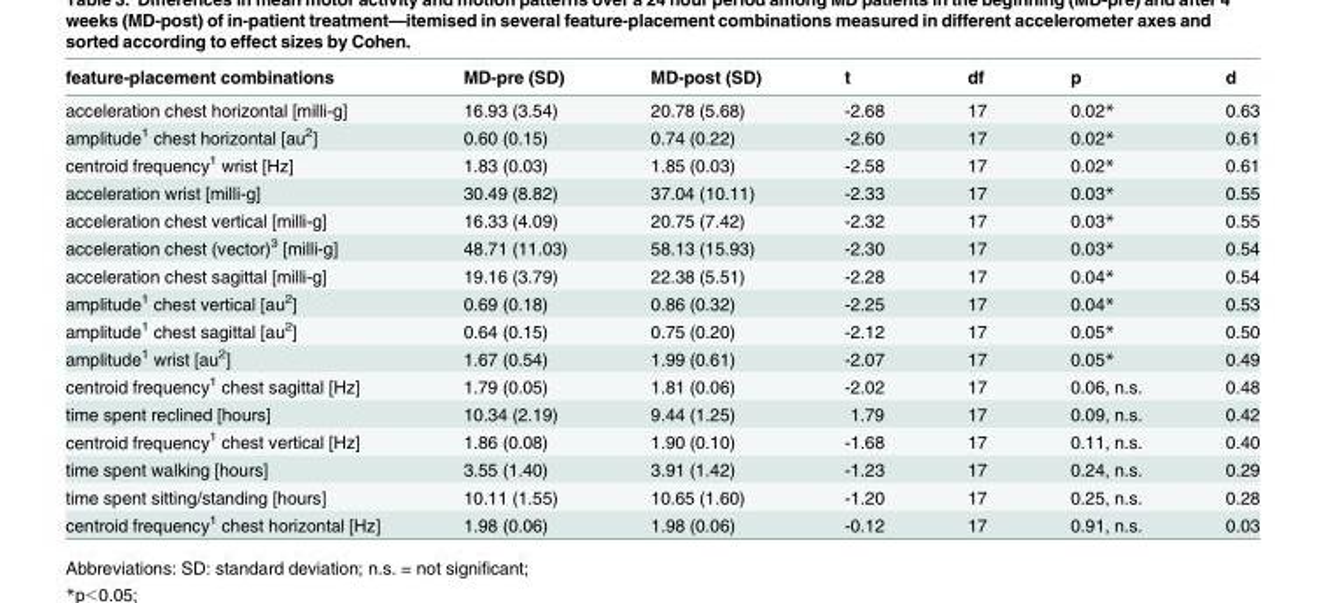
<table><thead><tr><td>feature-placement combinations</td><td>MD-pre (SD)</td><td>MD-post (SD)</td><td>t</td><td>df</td><td>p</td><td>d</td></tr></thead><tbody><tr><td>acceleration chest horizontal [milli-g]</td><td>16.93 (3.54)</td><td>20.78 (5.68)</td><td>-2.68</td><td>17</td><td>0.02*</td><td>0.63</td></tr><tr><td>amplitude<sup>1</sup> chest horizontal [au<sup>2</sup>]</td><td>0.60 (0.15)</td><td>0.74 (0.22)</td><td>-2.60</td><td>17</td><td>0.02*</td><td>0.61</td></tr><tr><td>centroid frequency<sup>1</sup> wrist [Hz]</td><td>1.83 (0.03)</td><td>1.85 (0.03)</td><td>-2.58</td><td>17</td><td>0.02*</td><td>0.61</td></tr><tr><td>acceleration wrist [milli-g]</td><td>30.49 (8.82)</td><td>37.04 (10.11)</td><td>-2.33</td><td>17</td><td>0.03*</td><td>0.55</td></tr><tr><td>acceleration chest vertical [milli-g]</td><td>16.33 (4.09)</td><td>20.75 (7.42)</td><td>-2.32</td><td>17</td><td>0.03*</td><td>0.55</td></tr><tr><td>acceleration chest (vector)<sup>3</sup> [milli-g]</td><td>48.71 (11.03)</td><td>58.13 (15.93)</td><td>-2.30</td><td>17</td><td>0.03*</td><td>0.54</td></tr><tr><td>acceleration chest sagittal [milli-g]</td><td>19.16 (3.79)</td><td>22.38 (5.51)</td><td>-2.28</td><td>17</td><td>0.04*</td><td>0.54</td></tr><tr><td>amplitude<sup>1</sup> chest vertical [au<sup>2</sup>]</td><td>0.69 (0.18)</td><td>0.86 (0.32)</td><td>-2.25</td><td>17</td><td>0.04*</td><td>0.53</td></tr><tr><td>amplitude<sup>1</sup> chest sagittal [au<sup>2</sup>]</td><td>0.64 (0.15)</td><td>0.75 (0.20)</td><td>-2.12</td><td>17</td><td>0.05*</td><td>0.50</td></tr><tr><td>amplitude<sup>1</sup> wrist [au<sup>2</sup>]</td><td>1.67 (0.54)</td><td>1.99 (0.61)</td><td>-2.07</td><td>17</td><td>0.05*</td><td>0.49</td></tr><tr><td>centroid frequency<sup>1</sup> chest sagittal [Hz]</td><td>1.79 (0.05)</td><td>1.81 (0.06)</td><td>-2.02</td><td>17</td><td>0.06, n.s.</td><td>0.48</td></tr><tr><td>time spent reclined [hours]</td><td>10.34 (2.19)</td><td>9.44 (1.25)</td><td>1.79</td><td>17</td><td>0.09, n.s.</td><td>0.42</td></tr><tr><td>centroid frequency<sup>1</sup> chest vertical [Hz]</td><td>1.86 (0.08)</td><td>1.90 (0.10)</td><td>-1.68</td><td>17</td><td>0.11, n.s.</td><td>0.40</td></tr><tr><td>time spent walking [hours]</td><td>3.55 (1.40)</td><td>3.91 (1.42)</td><td>-1.23</td><td>17</td><td>0.24, n.s.</td><td>0.29</td></tr><tr><td>time spent sitting/standing [hours]</td><td>10.11 (1.55)</td><td>10.65 (1.60)</td><td>-1.20</td><td>17</td><td>0.25, n.s.</td><td>0.28</td></tr><tr><td>centroid frequency<sup>1</sup> chest horizontal [Hz]</td><td>1.98 (0.06)</td><td>1.98 (0.06)</td><td>-0.12</td><td>17</td><td>0.91, n.s.</td><td>0.03</td></tr></tbody></table>